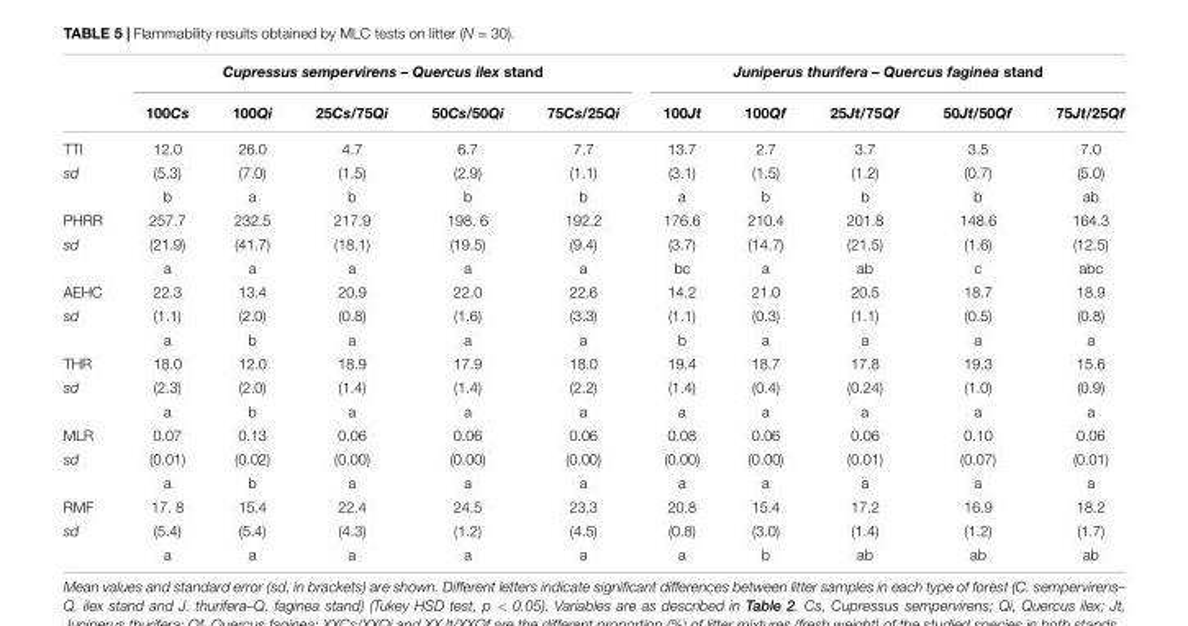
<table><thead><tr><td rowspan="2"></td><td colspan="5">Cupressus sempervirens – Quercus ilex stand</td><td colspan="5">Juniperus thurifera – Quercus faginea stand</td></tr><tr><td>100Cs</td><td>100Qi</td><td>25Cs/75Qi</td><td>50Cs/50Qi</td><td>75Cs/25Qi</td><td>100Jt</td><td>100Qf</td><td>25Jt/75Qf</td><td>50Jt/50Qf</td><td>75Jt/25Qf</td></tr></thead><tbody><tr><td>TTI</td><td>12.0</td><td>26.0</td><td>4.7</td><td>6.7</td><td>7.7</td><td>13.7</td><td>2.7</td><td>3.7</td><td>3.5</td><td>7.0</td></tr><tr><td rowspan="2">sd</td><td>(5.3)</td><td>(7.0)</td><td>(1.5)</td><td>(2.9)</td><td>(1.1)</td><td>(3.1)</td><td>(1.5)</td><td>(1.2)</td><td>(0.7)</td><td>(5.0)</td></tr><tr><td>b</td><td>a</td><td>b</td><td>b</td><td>b</td><td>a</td><td>b</td><td>b</td><td>b</td><td>ab</td></tr><tr><td>PHRR</td><td>257.7</td><td>232.5</td><td>217.9</td><td>198. 6</td><td>192.2</td><td>176.6</td><td>210.4</td><td>201.8</td><td>148.6</td><td>164.3</td></tr><tr><td rowspan="2">sd</td><td>(21.9)</td><td>(41.7)</td><td>(18.1)</td><td>(19.5)</td><td>(9.4)</td><td>(3.7)</td><td>(14.7)</td><td>(21.5)</td><td>(1.6)</td><td>(12.5)</td></tr><tr><td>a</td><td>a</td><td>a</td><td>a</td><td>a</td><td>bc</td><td>a</td><td>ab</td><td>c</td><td>abc</td></tr><tr><td>AEHC</td><td>22.3</td><td>13.4</td><td>20.9</td><td>22.0</td><td>22.6</td><td>14.2</td><td>21.0</td><td>20.5</td><td>18.7</td><td>18.9</td></tr><tr><td rowspan="2">sd</td><td>(1.1)</td><td>(2.0)</td><td>(0.8)</td><td>(1.6)</td><td>(3.3)</td><td>(1.1)</td><td>(0.3)</td><td>(1.1)</td><td>(0.5)</td><td>(0.8)</td></tr><tr><td>a</td><td>b</td><td>a</td><td>a</td><td>a</td><td>b</td><td>a</td><td>a</td><td>a</td><td>a</td></tr><tr><td>THR</td><td>18.0</td><td>12.0</td><td>18.9</td><td>17.9</td><td>18.0</td><td>19.4</td><td>18.7</td><td>17.8</td><td>19.3</td><td>15.6</td></tr><tr><td rowspan="2">sd</td><td>(2.3)</td><td>(2.0)</td><td>(1.4)</td><td>(1.4)</td><td>(2.2)</td><td>(1.4)</td><td>(0.4)</td><td>(0.24)</td><td>(1.0)</td><td>(0.9)</td></tr><tr><td>a</td><td>b</td><td>a</td><td>a</td><td>a</td><td>a</td><td>a</td><td>a</td><td>a</td><td>a</td></tr><tr><td>MLR</td><td>0.07</td><td>0.13</td><td>0.06</td><td>0.06</td><td>0.06</td><td>0.08</td><td>0.06</td><td>0.06</td><td>0.10</td><td>0.06</td></tr><tr><td rowspan="2">sd</td><td>(0.01)</td><td>(0.02)</td><td>(0.00)</td><td>(0.00)</td><td>(0.00)</td><td>(0.00)</td><td>(0.00)</td><td>(0.01)</td><td>(0.07)</td><td>(0.01)</td></tr><tr><td>a</td><td>b</td><td>a</td><td>a</td><td>a</td><td>a</td><td>a</td><td>a</td><td>a</td><td>a</td></tr><tr><td>RMF</td><td>17. 8</td><td>15.4</td><td>22.4</td><td>24.5</td><td>23.3</td><td>20.8</td><td>15.4</td><td>17.2</td><td>16.9</td><td>18.2</td></tr><tr><td rowspan="2">sd</td><td>(5.4)</td><td>(5.4)</td><td>(4.3)</td><td>(1.2)</td><td>(4.5)</td><td>(0.8)</td><td>(3.0)</td><td>(1.4)</td><td>(1.2)</td><td>(1.7)</td></tr><tr><td>a</td><td>a</td><td>a</td><td>a</td><td>a</td><td>a</td><td>b</td><td>ab</td><td>ab</td><td>ab</td></tr></tbody></table>